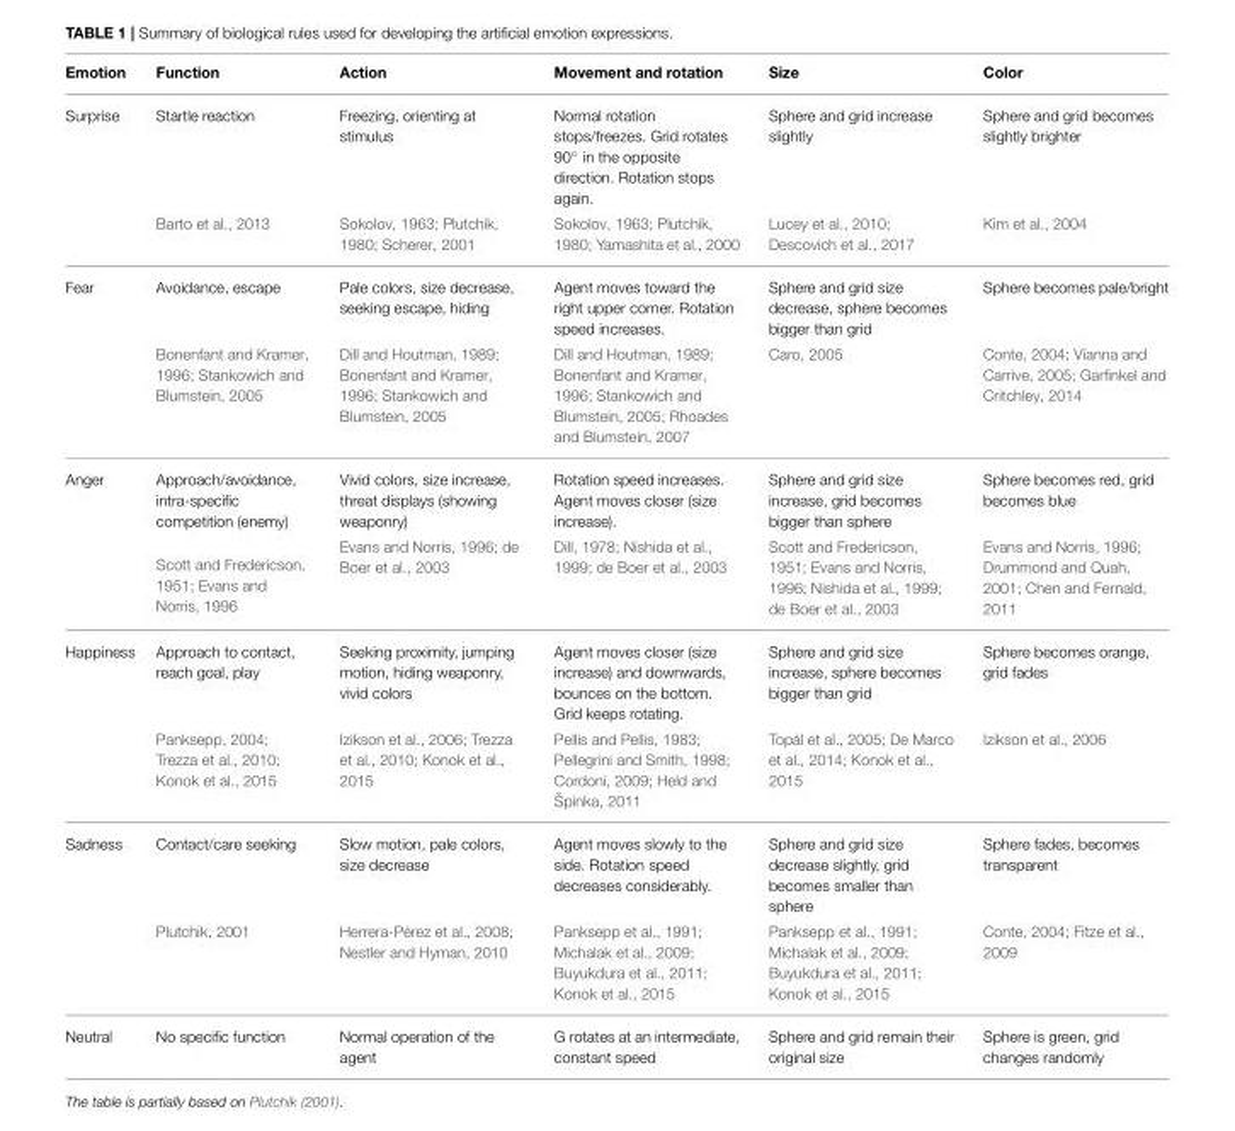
<table><thead><tr><td>Emotion</td><td>Function</td><td>Action</td><td>Movement and rotation</td><td>Size</td><td>Color</td></tr></thead><tbody><tr><td rowspan="2">Surprise</td><td>Startle reaction</td><td>Freezing, orienting at stimulus</td><td>Normal rotation stops/freezes. Grid rotates 90◦ in the opposite direction. Rotation stops again.</td><td>Sphere and grid increase slightly</td><td>Sphere and grid becomes slightly brighter</td></tr><tr><td>Barto et al., 2013</td><td>Sokolov, 1963; Plutchik, 1980; Scherer, 2001</td><td>Sokolov, 1963; Plutchik, 1980; Yamashita et al., 2000</td><td>Lucey et al., 2010; Descovich et al., 2017</td><td>Kim et al., 2004</td></tr><tr><td rowspan="2">Fear</td><td>Avoidance, escape</td><td>Pale colors, size decrease, seeking escape, hiding</td><td>Agent moves toward the right upper corner. Rotation speed increases.</td><td>Sphere and grid size decrease, sphere becomes bigger than grid</td><td>Sphere becomes pale/bright</td></tr><tr><td>Bonenfant and Kramer, 1996; Stankowich and Blumstein, 2005</td><td>Dill and Houtman, 1989; Bonenfant and Kramer, 1996; Stankowich and Blumstein, 2005</td><td>Dill and Houtman, 1989; Bonenfant and Kramer, 1996; Stankowich and Blumstein, 2005; Rhoades and Blumstein, 2007</td><td>Caro, 2005</td><td>Conte, 2004; Vianna and Carrive, 2005; Garfinkel and Critchley, 2014</td></tr><tr><td rowspan="2">Anger</td><td>Approach/avoidance, intra-specific competition (enemy)</td><td>Vivid colors, size increase, threat displays (showing weaponry)</td><td>Rotation speed increases. Agent moves closer (size increase).</td><td>Sphere and grid size increase, grid becomes bigger than sphere</td><td>Sphere becomes red, grid becomes blue</td></tr><tr><td>Scott and Fredericson, 1951; Evans and Norris, 1996</td><td>Evans and Norris, 1996; de Boer et al., 2003</td><td>Dill, 1978; Nishida et al., 1999; de Boer et al., 2003</td><td>Scott and Fredericson, 1951; Evans and Norris, 1996; Nishida et al., 1999; de Boer et al., 2003</td><td>Evans and Norris, 1996; Drummond and Quah, 2001; Chen and Fernald, 2011</td></tr><tr><td rowspan="2">Happiness</td><td>Approach to contact, reach goal, play</td><td>Seeking proximity, jumping motion, hiding weaponry, vivid colors</td><td>Agent moves closer (size increase) and downwards, bounces on the bottom. Grid keeps rotating.</td><td>Sphere and grid size increase, sphere becomes bigger than grid</td><td>Sphere becomes orange, grid fades</td></tr><tr><td>Panksepp, 2004; Trezza et al., 2010; Konok et al., 2015</td><td>Izikson et al., 2006; Trezza et al., 2010; Konok et al., 2015</td><td>Pellis and Pellis, 1983; Pellegrini and Smith, 1998; Cordoni, 2009; Held and Špinka, 2011</td><td>Topál et al., 2005; De Marco et al., 2014; Konok et al., 2015</td><td>Izikson et al., 2006</td></tr><tr><td rowspan="2">Sadness</td><td>Contact/care seeking</td><td>Slow motion, pale colors, size decrease</td><td>Agent moves slowly to the side. Rotation speed decreases considerably.</td><td>Sphere and grid size decrease slightly, grid becomes smaller than sphere</td><td>Sphere fades, becomes transparent</td></tr><tr><td>Plutchik, 2001</td><td>Herrera-Pérez et al., 2008; Nestler and Hyman, 2010</td><td>Panksepp et al., 1991; Michalak et al., 2009; Buyukdura et al., 2011; Konok et al., 2015</td><td>Panksepp et al., 1991; Michalak et al., 2009; Buyukdura et al., 2011; Konok et al., 2015</td><td>Conte, 2004; Fitze et al., 2009</td></tr><tr><td>Neutral</td><td>No specific function</td><td>Normal operation of the agent</td><td>G rotates at an intermediate, constant speed</td><td>Sphere and grid remain their original size</td><td>Sphere is green, grid changes randomly</td></tr></tbody></table>